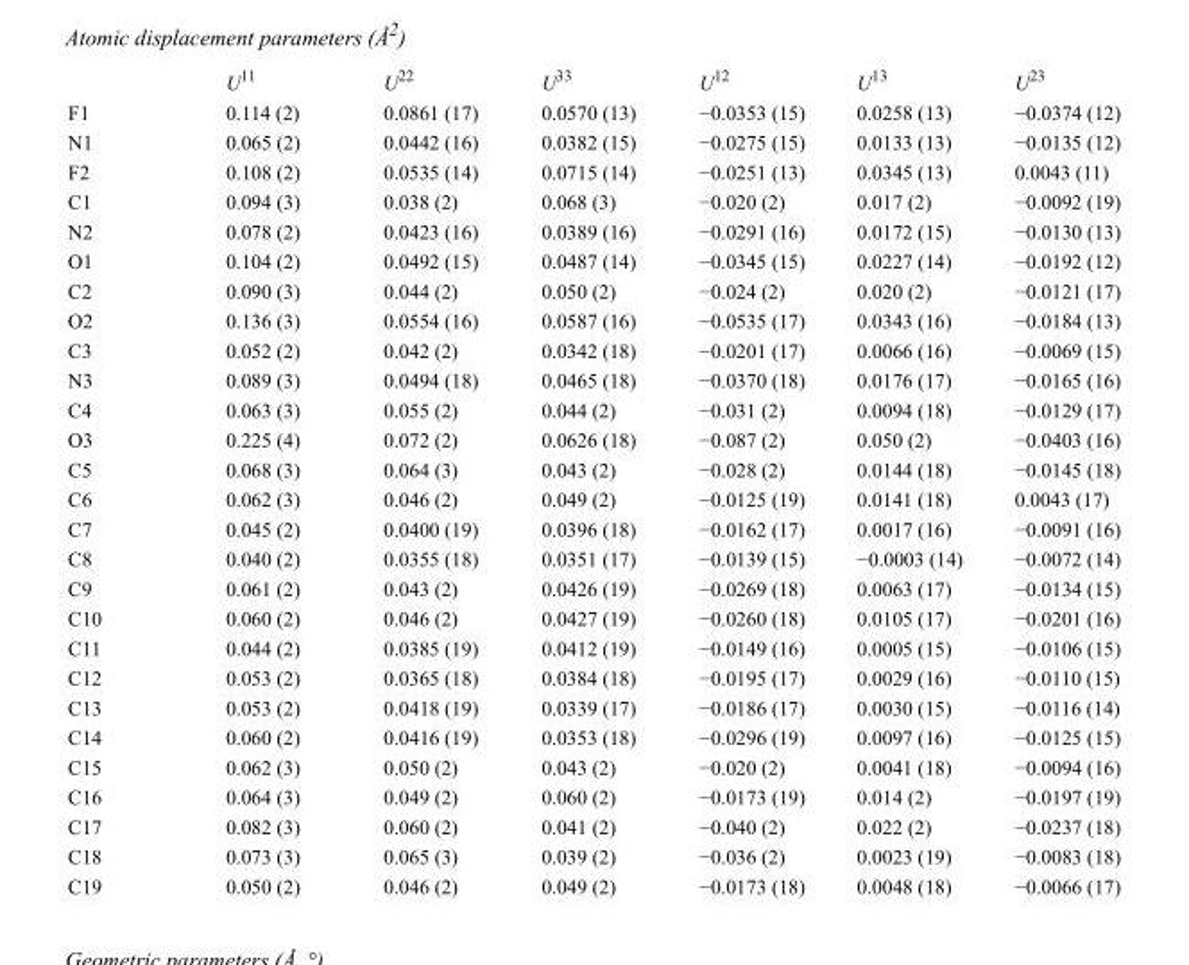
<table><thead><tr><td></td><td>U<sup>11</sup></td><td>U<sup>22</sup></td><td>U<sup>33</sup></td><td>U<sup>12</sup></td><td>U<sup>13</sup></td><td>U<sup>23</sup></td></tr></thead><tbody><tr><td>F1</td><td>0.114 (2)</td><td>0.0861 (17)</td><td>0.0570 (13)</td><td>−0.0353 (15)</td><td>0.0258 (13)</td><td>−0.0374 (12)</td></tr><tr><td>N1</td><td>0.065 (2)</td><td>0.0442 (16)</td><td>0.0382 (15)</td><td>−0.0275 (15)</td><td>0.0133 (13)</td><td>−0.0135 (12)</td></tr><tr><td>F2</td><td>0.108 (2)</td><td>0.0535 (14)</td><td>0.0715 (14)</td><td>−0.0251 (13)</td><td>0.0345 (13)</td><td>0.0043 (11)</td></tr><tr><td>C1</td><td>0.094 (3)</td><td>0.038 (2)</td><td>0.068 (3)</td><td>−0.020 (2)</td><td>0.017 (2)</td><td>−0.0092 (19)</td></tr><tr><td>N2</td><td>0.078 (2)</td><td>0.0423 (16)</td><td>0.0389 (16)</td><td>−0.0291 (16)</td><td>0.0172 (15)</td><td>−0.0130 (13)</td></tr><tr><td>O1</td><td>0.104 (2)</td><td>0.0492 (15)</td><td>0.0487 (14)</td><td>−0.0345 (15)</td><td>0.0227 (14)</td><td>−0.0192 (12)</td></tr><tr><td>C2</td><td>0.090 (3)</td><td>0.044 (2)</td><td>0.050 (2)</td><td>−0.024 (2)</td><td>0.020 (2)</td><td>−0.0121 (17)</td></tr><tr><td>O2</td><td>0.136 (3)</td><td>0.0554 (16)</td><td>0.0587 (16)</td><td>−0.0535 (17)</td><td>0.0343 (16)</td><td>−0.0184 (13)</td></tr><tr><td>C3</td><td>0.052 (2)</td><td>0.042 (2)</td><td>0.0342 (18)</td><td>−0.0201 (17)</td><td>0.0066 (16)</td><td>−0.0069 (15)</td></tr><tr><td>N3</td><td>0.089 (3)</td><td>0.0494 (18)</td><td>0.0465 (18)</td><td>−0.0370 (18)</td><td>0.0176 (17)</td><td>−0.0165 (16)</td></tr><tr><td>C4</td><td>0.063 (3)</td><td>0.055 (2)</td><td>0.044 (2)</td><td>−0.031 (2)</td><td>0.0094 (18)</td><td>−0.0129 (17)</td></tr><tr><td>O3</td><td>0.225 (4)</td><td>0.072 (2)</td><td>0.0626 (18)</td><td>−0.087 (2)</td><td>0.050 (2)</td><td>−0.0403 (16)</td></tr><tr><td>C5</td><td>0.068 (3)</td><td>0.064 (3)</td><td>0.043 (2)</td><td>−0.028 (2)</td><td>0.0144 (18)</td><td>−0.0145 (18)</td></tr><tr><td>C6</td><td>0.062 (3)</td><td>0.046 (2)</td><td>0.049 (2)</td><td>−0.0125 (19)</td><td>0.0141 (18)</td><td>0.0043 (17)</td></tr><tr><td>C7</td><td>0.045 (2)</td><td>0.0400 (19)</td><td>0.0396 (18)</td><td>−0.0162 (17)</td><td>0.0017 (16)</td><td>−0.0091 (16)</td></tr><tr><td>C8</td><td>0.040 (2)</td><td>0.0355 (18)</td><td>0.0351 (17)</td><td>−0.0139 (15)</td><td>−0.0003 (14)</td><td>−0.0072 (14)</td></tr><tr><td>C9</td><td>0.061 (2)</td><td>0.043 (2)</td><td>0.0426 (19)</td><td>−0.0269 (18)</td><td>0.0063 (17)</td><td>−0.0134 (15)</td></tr><tr><td>C10</td><td>0.060 (2)</td><td>0.046 (2)</td><td>0.0427 (19)</td><td>−0.0260 (18)</td><td>0.0105 (17)</td><td>−0.0201 (16)</td></tr><tr><td>C11</td><td>0.044 (2)</td><td>0.0385 (19)</td><td>0.0412 (19)</td><td>−0.0149 (16)</td><td>0.0005 (15)</td><td>−0.0106 (15)</td></tr><tr><td>C12</td><td>0.053 (2)</td><td>0.0365 (18)</td><td>0.0384 (18)</td><td>−0.0195 (17)</td><td>0.0029 (16)</td><td>−0.0110 (15)</td></tr><tr><td>C13</td><td>0.053 (2)</td><td>0.0418 (19)</td><td>0.0339 (17)</td><td>−0.0186 (17)</td><td>0.0030 (15)</td><td>−0.0116 (14)</td></tr><tr><td>C14</td><td>0.060 (2)</td><td>0.0416 (19)</td><td>0.0353 (18)</td><td>−0.0296 (19)</td><td>0.0097 (16)</td><td>−0.0125 (15)</td></tr><tr><td>C15</td><td>0.062 (3)</td><td>0.050 (2)</td><td>0.043 (2)</td><td>−0.020 (2)</td><td>0.0041 (18)</td><td>−0.0094 (16)</td></tr><tr><td>C16</td><td>0.064 (3)</td><td>0.049 (2)</td><td>0.060 (2)</td><td>−0.0173 (19)</td><td>0.014 (2)</td><td>−0.0197 (19)</td></tr><tr><td>C17</td><td>0.082 (3)</td><td>0.060 (2)</td><td>0.041 (2)</td><td>−0.040 (2)</td><td>0.022 (2)</td><td>−0.0237 (18)</td></tr><tr><td>C18</td><td>0.073 (3)</td><td>0.065 (3)</td><td>0.039 (2)</td><td>−0.036 (2)</td><td>0.0023 (19)</td><td>−0.0083 (18)</td></tr><tr><td>C19</td><td>0.050 (2)</td><td>0.046 (2)</td><td>0.049 (2)</td><td>−0.0173 (18)</td><td>0.0048 (18)</td><td>−0.0066 (17)</td></tr></tbody></table>